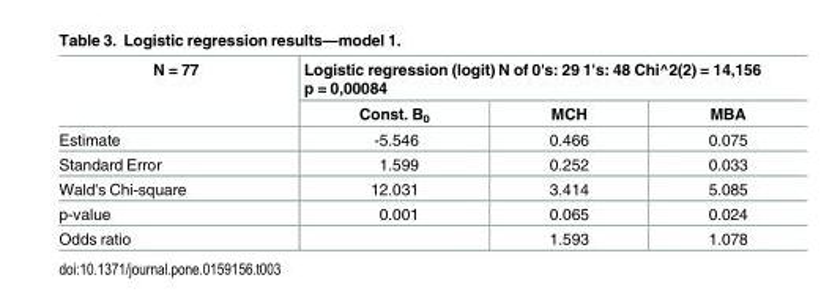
<table><thead><tr><td rowspan="2">N = 77</td><td colspan="3">Logistic regression (logit) N of 0&#x27;s: 29 1&#x27;s: 48 Chi^2(2) = 14,156 p = 0,00084</td></tr><tr><td>Const. B<sub>0</sub></td><td>MCH</td><td>MBA</td></tr></thead><tbody><tr><td>Estimate</td><td>-5.546</td><td>0.466</td><td>0.075</td></tr><tr><td>Standard Error</td><td>1.599</td><td>0.252</td><td>0.033</td></tr><tr><td>Wald&#x27;s Chi-square</td><td>12.031</td><td>3.414</td><td>5.085</td></tr><tr><td>p-value</td><td>0.001</td><td>0.065</td><td>0.024</td></tr><tr><td>Odds ratio</td><td></td><td>1.593</td><td>1.078</td></tr></tbody></table>